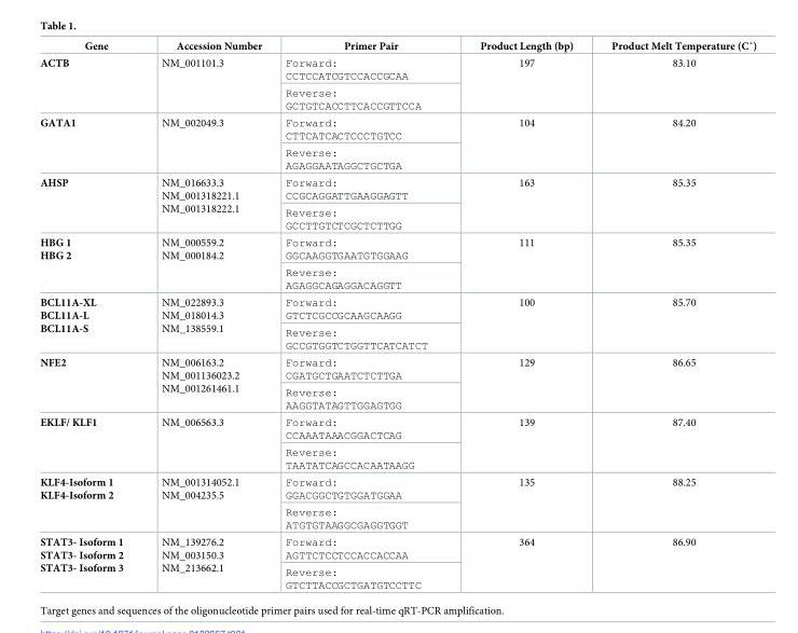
<table><thead><tr><td>Gene</td><td>Accession Number</td><td>Primer Pair</td><td>Product Length (bp)</td><td>Product Melt Temperature (C˚)</td></tr></thead><tbody><tr><td rowspan="2">ACTB</td><td rowspan="2">NM_001101.3</td><td>Forward: CCTCCATCGTCCACCGCAA</td><td rowspan="2">197</td><td rowspan="2">83.10</td></tr><tr><td>Reverse: GCTGTCACCTTCACCGTTCCA</td></tr><tr><td rowspan="2">GATA1</td><td rowspan="2">NM_002049.3</td><td>Forward: CTTCATCACTCCCTGTCC</td><td rowspan="2">104</td><td rowspan="2">84.20</td></tr><tr><td>Reverse: AGAGGAATAGGCTGCTGA</td></tr><tr><td rowspan="2">AHSP</td><td rowspan="2">NM_016633.3 NM_001318221.1 NM_001318222.1</td><td>Forward: CCGCAGGATTGAAGGAGTT</td><td rowspan="2">163</td><td rowspan="2">85.35</td></tr><tr><td>Reverse: GCCTTGTCTCGCTCTTGG</td></tr><tr><td rowspan="2">HBG 1 HBG 2</td><td rowspan="2">NM_000559.2 NM_000184.2</td><td>Forward: GGCAAGGTGAATGTGGAAG</td><td rowspan="2">111</td><td rowspan="2">85.35</td></tr><tr><td>Reverse: AGAGGCAGAGGACAGGTT</td></tr><tr><td rowspan="2">BCL11A-XL BCL11A-L BCL11A-S</td><td rowspan="2">NM_022893.3 NM_018014.3 NM_138559.1</td><td>Forward: GTCTCGCCGCAAGCAAGG</td><td rowspan="2">100</td><td rowspan="2">85.70</td></tr><tr><td>Reverse: GCCGTGGTCTGGTTCATCATCT</td></tr><tr><td rowspan="2">NFE2</td><td rowspan="2">NM_006163.2 NM_001136023.2 NM_001261461.1</td><td>Forward: CGATGCTGAATCTCTTGA</td><td rowspan="2">129</td><td rowspan="2">86.65</td></tr><tr><td>Reverse: AAGGTATAGTTGGAGTGG</td></tr><tr><td rowspan="2">EKLF/ KLF1</td><td rowspan="2">NM_006563.3</td><td>Forward: CCAAATAAACGGACTCAG</td><td rowspan="2">139</td><td rowspan="2">87.40</td></tr><tr><td>Reverse: TAATATCAGCCACAATAAGG</td></tr><tr><td rowspan="2">KLF4-Isoform 1 KLF4-Isoform 2</td><td rowspan="2">NM_001314052.1 NM_004235.5</td><td>Forward: GGACGGCTGTGGATGGAA</td><td rowspan="2">135</td><td rowspan="2">88.25</td></tr><tr><td>Reverse: ATGTGTAAGGCGAGGTGGT</td></tr><tr><td rowspan="2">STAT3- Isoform 1 STAT3- Isoform 2 STAT3- Isoform 3</td><td rowspan="2">NM_139276.2 NM_003150.3 NM_213662.1</td><td>Forward: AGTTCTCCTCCACCACCAA</td><td rowspan="2">364</td><td rowspan="2">86.90</td></tr><tr><td>Reverse: GTCTTACCGCTGATGTCCTTC</td></tr></tbody></table>